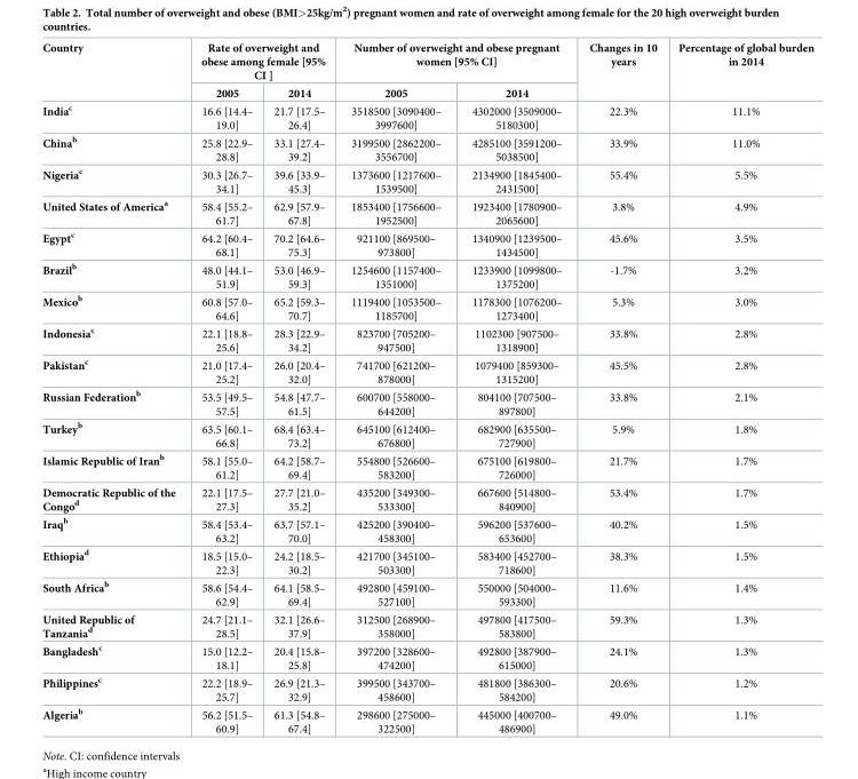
<table><thead><tr><td rowspan="2">Country</td><td colspan="2">Rate of overweight and obese among female [95% CI ]</td><td colspan="2">Number of overweight and obese pregnant women [95% CI]</td><td rowspan="2">Changes in 10 years</td><td rowspan="2">Percentage of global burden in 2014</td></tr><tr><td>2005</td><td>2014</td><td>2005</td><td>2014</td></tr></thead><tbody><tr><td>India<sup>c</sup></td><td>16.6 [14.4– 19.0]</td><td>21.7 [17.5– 26.4]</td><td>3518500 [3090400– 3997600]</td><td>4302000 [3509000– 5180300]</td><td>22.3%</td><td>11.1%</td></tr><tr><td>China<sup>b</sup></td><td>25.8 [22.9– 28.8]</td><td>33.1 [27.4– 39.2]</td><td>3199500 [2862200– 3556700]</td><td>4285100 [3591200– 5038500]</td><td>33.9%</td><td>11.0%</td></tr><tr><td>Nigeria<sup>c</sup></td><td>30.3 [26.7– 34.1]</td><td>39.6 [33.9– 45.3]</td><td>1373600 [1217600– 1539500]</td><td>2134900 [1845400– 2431500]</td><td>55.4%</td><td>5.5%</td></tr><tr><td>United States of America<sup>a</sup></td><td>58.4 [55.2– 61.7]</td><td>62.9 [57.9– 67.8]</td><td>1853400 [1756600– 1952500]</td><td>1923400 [1780900– 2065600]</td><td>3.8%</td><td>4.9%</td></tr><tr><td>Egypt<sup>c</sup></td><td>64.2 [60.4– 68.1]</td><td>70.2 [64.6– 75.3]</td><td>921100 [869500– 973800]</td><td>1340900 [1239500– 1434500]</td><td>45.6%</td><td>3.5%</td></tr><tr><td>Brazil<sup>b</sup></td><td>48.0 [44.1– 51.9]</td><td>53.0 [46.9– 59.3]</td><td>1254600 [1157400– 1351000]</td><td>1233900 [1099800– 1375200]</td><td>-1.7%</td><td>3.2%</td></tr><tr><td>Mexico<sup>b</sup></td><td>60.8 [57.0– 64.6]</td><td>65.2 [59.3– 70.7]</td><td>1119400 [1053500– 1185700]</td><td>1178300 [1076200– 1273400]</td><td>5.3%</td><td>3.0%</td></tr><tr><td>Indonesia<sup>c</sup></td><td>22.1 [18.8– 25.6]</td><td>28.3 [22.9– 34.2]</td><td>823700 [705200– 947500]</td><td>1102300 [907500– 1318900]</td><td>33.8%</td><td>2.8%</td></tr><tr><td>Pakistan<sup>c</sup></td><td>21.0 [17.4– 25.2]</td><td>26.0 [20.4– 32.0]</td><td>741700 [621200– 878000]</td><td>1079400 [859300– 1315200]</td><td>45.5%</td><td>2.8%</td></tr><tr><td>Russian Federation<sup>b</sup></td><td>53.5 [49.5– 57.5]</td><td>54.8 [47.7– 61.5]</td><td>600700 [558000– 644200]</td><td>804100 [707500– 897800]</td><td>33.8%</td><td>2.1%</td></tr><tr><td>Turkey<sup>b</sup></td><td>63.5 [60.1– 66.8]</td><td>68.4 [63.4– 73.2]</td><td>645100 [612400– 676800]</td><td>682900 [635500– 727900]</td><td>5.9%</td><td>1.8%</td></tr><tr><td>Islamic Republic of Iran<sup>b</sup></td><td>58.1 [55.0– 61.2]</td><td>64.2 [58.7– 69.4]</td><td>554800 [526600– 583200]</td><td>675100 [619800– 726000]</td><td>21.7%</td><td>1.7%</td></tr><tr><td>Democratic Republic of the Congo<sup>d</sup></td><td>22.1 [17.5– 27.3]</td><td>27.7 [21.0– 35.2]</td><td>435200 [349300– 533300]</td><td>667600 [514800– 840900]</td><td>53.4%</td><td>1.7%</td></tr><tr><td>Iraq<sup>b</sup></td><td>58.4 [53.4– 63.2]</td><td>63.7 [57.1– 70.0]</td><td>425200 [390400– 458300]</td><td>596200 [537600– 653600]</td><td>40.2%</td><td>1.5%</td></tr><tr><td>Ethiopia<sup>d</sup></td><td>18.5 [15.0– 22.3]</td><td>24.2 [18.5– 30.2]</td><td>421700 [345100– 503300]</td><td>583400 [452700– 718600]</td><td>38.3%</td><td>1.5%</td></tr><tr><td>South Africa<sup>b</sup></td><td>58.6 [54.4– 62.9]</td><td>64.1 [58.5– 69.4]</td><td>492800 [459100– 527100]</td><td>550000 [504000– 593300]</td><td>11.6%</td><td>1.4%</td></tr><tr><td>United Republic of Tanzania<sup>d</sup></td><td>24.7 [21.1– 28.5]</td><td>32.1 [26.6– 37.9]</td><td>312500 [268900– 358000]</td><td>497800 [417500– 583800]</td><td>59.3%</td><td>1.3%</td></tr><tr><td>Bangladesh<sup>c</sup></td><td>15.0 [12.2– 18.1]</td><td>20.4 [15.8– 25.8]</td><td>397200 [328600– 474200]</td><td>492800 [387900– 615000]</td><td>24.1%</td><td>1.3%</td></tr><tr><td>Philippines<sup>c</sup></td><td>22.2 [18.9– 25.7]</td><td>26.9 [21.3– 32.9]</td><td>399500 [343700– 458600]</td><td>481800 [386300– 584200]</td><td>20.6%</td><td>1.2%</td></tr><tr><td>Algeria<sup>b</sup></td><td>56.2 [51.5– 60.9]</td><td>61.3 [54.8– 67.4]</td><td>298600 [275000– 322500]</td><td>445000 [400700– 486900]</td><td>49.0%</td><td>1.1%</td></tr></tbody></table>